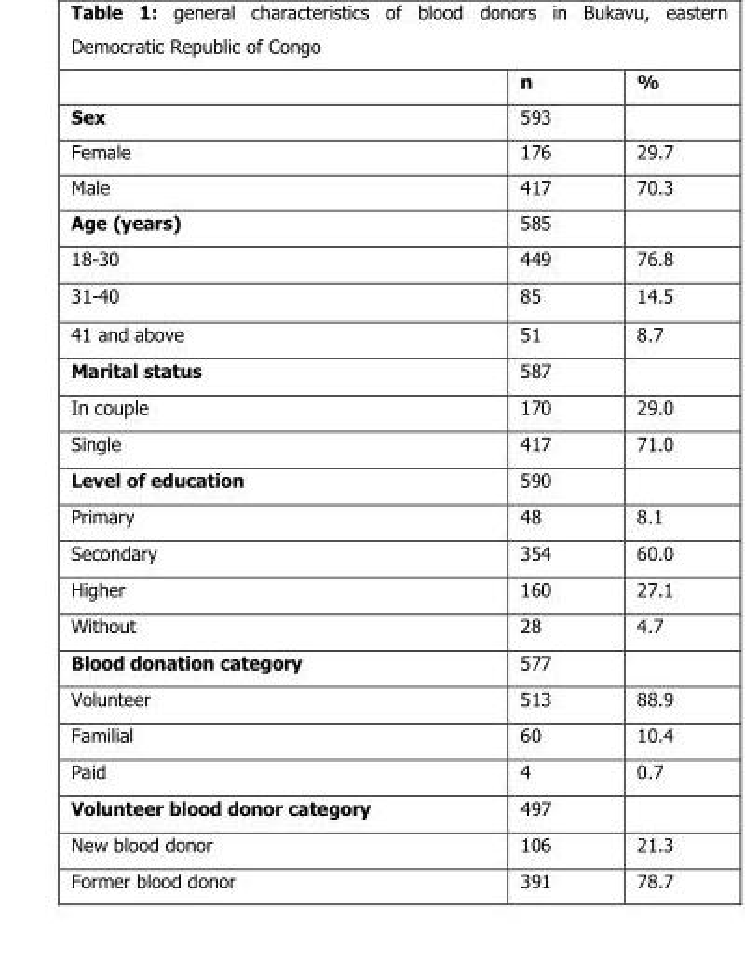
<table><thead><tr><td></td><td>n</td><td>%</td></tr></thead><tbody><tr><td>Sex</td><td>593</td><td></td></tr><tr><td>Female</td><td>176</td><td>29.7</td></tr><tr><td>Male</td><td>417</td><td>70.3</td></tr><tr><td>Age (years)</td><td>585</td><td></td></tr><tr><td>18-30</td><td>449</td><td>76.8</td></tr><tr><td>31-40</td><td>85</td><td>14.5</td></tr><tr><td>41 and above</td><td>51</td><td>8.7</td></tr><tr><td>Marital status</td><td>587</td><td></td></tr><tr><td>In couple</td><td>170</td><td>29.0</td></tr><tr><td>Single</td><td>417</td><td>71.0</td></tr><tr><td>Level of education</td><td>590</td><td></td></tr><tr><td>Primary</td><td>48</td><td>8.1</td></tr><tr><td>Secondary</td><td>354</td><td>60.0</td></tr><tr><td>Higher</td><td>160</td><td>27.1</td></tr><tr><td>Without</td><td>28</td><td>4.7</td></tr><tr><td>Blood donation category</td><td>577</td><td></td></tr><tr><td>Volunteer</td><td>513</td><td>88.9</td></tr><tr><td>Familial</td><td>60</td><td>10.4</td></tr><tr><td>Paid</td><td>4</td><td>0.7</td></tr><tr><td>Volunteer blood donor category</td><td>497</td><td></td></tr><tr><td>New blood donor</td><td>106</td><td>21.3</td></tr><tr><td>Former blood donor</td><td>391</td><td>78.7</td></tr></tbody></table>